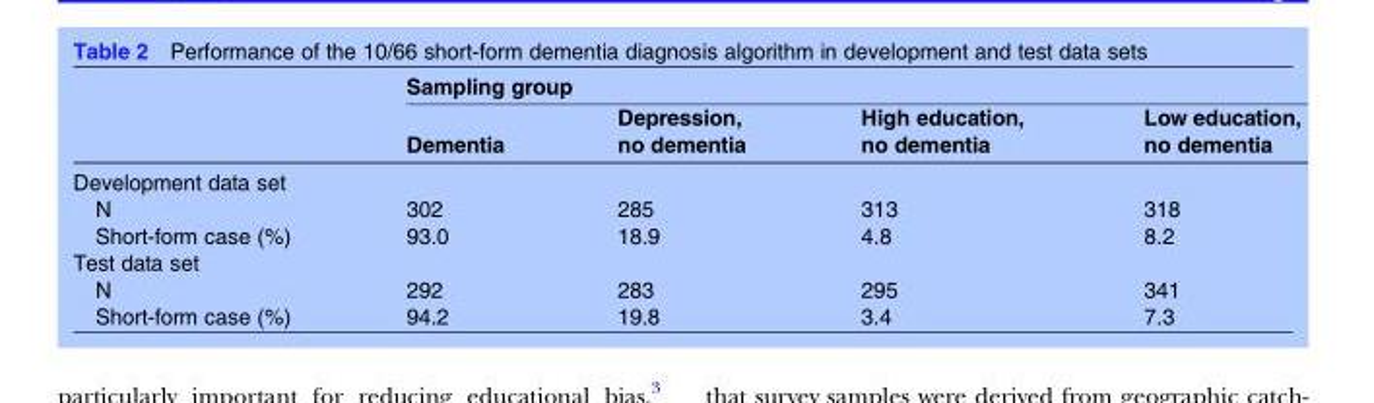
<table><thead><tr><td rowspan="2"></td><td colspan="4">Sampling group</td></tr><tr><td>Dementia</td><td>Depression, no dementia</td><td>High education, no dementia</td><td>Low education, no dementia</td></tr></thead><tbody><tr><td colspan="5">Development data set</td></tr><tr><td>N</td><td>302</td><td>285</td><td>313</td><td>318</td></tr><tr><td>Short-form case (%)</td><td>93.0</td><td>18.9</td><td>4.8</td><td>8.2</td></tr><tr><td colspan="5">Test data set</td></tr><tr><td>N</td><td>292</td><td>283</td><td>295</td><td>341</td></tr><tr><td>Short-form case (%)</td><td>94.2</td><td>19.8</td><td>3.4</td><td>7.3</td></tr></tbody></table>